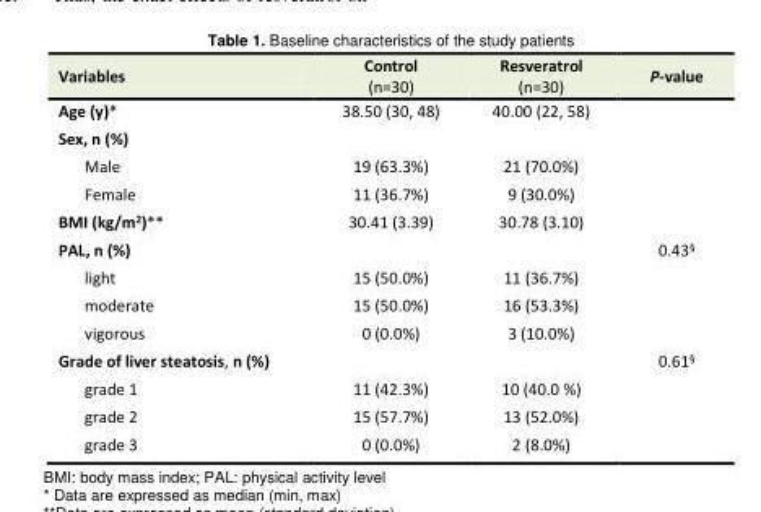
<table><tbody><tr><td>Variables</td><td>Control (n=30)</td><td>Resveratrol (n=30)</td><td>P-value</td></tr><tr><td>Age (y)*</td><td>38.50 (30, 48)</td><td>40.00 (22, 58)</td><td></td></tr><tr><td colspan="3">Sex, n (%)</td><td rowspan="3"></td></tr><tr><td>Male</td><td>19 (63.3%)</td><td>21 (70.0%)</td></tr><tr><td>Female</td><td>11 (36.7%)</td><td>9 (30.0%)</td></tr><tr><td>BMI (kg/m<sup>2</sup>)**</td><td>30.41 (3.39)</td><td>30.78 (3.10)</td><td></td></tr><tr><td>PAL, n (%)</td><td></td><td></td><td>0.43<sup>§</sup></td></tr><tr><td>light</td><td>15 (50.0%)</td><td>11 (36.7%)</td><td></td></tr><tr><td>moderate</td><td>15 (50.0%)</td><td>16 (53.3%)</td><td></td></tr><tr><td>vigorous</td><td>0 (0.0%)</td><td>3 (10.0%)</td><td></td></tr><tr><td>Grade of liver steatosis, n (%)</td><td></td><td></td><td>0.61<sup>§</sup></td></tr><tr><td>grade 1</td><td>11 (42.3%)</td><td>10 (40.0 %)</td><td></td></tr><tr><td>grade 2</td><td>15 (57.7%)</td><td>13 (52.0%)</td><td></td></tr><tr><td>grade 3</td><td>0 (0.0%)</td><td>2 (8.0%)</td><td></td></tr></tbody></table>